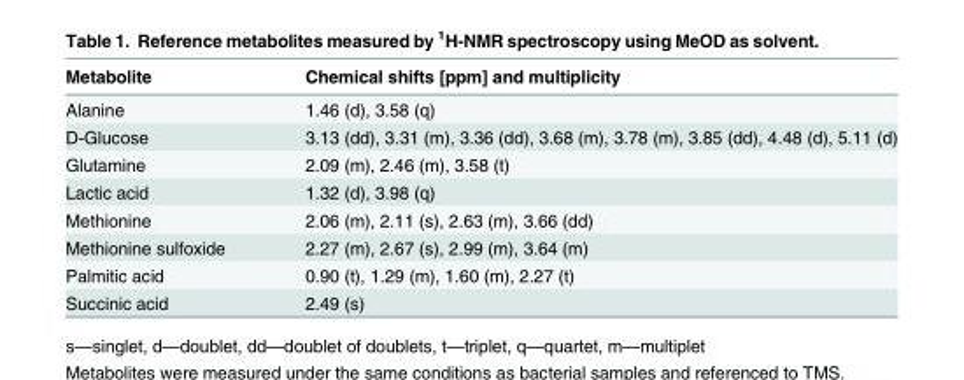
<table><thead><tr><td>Metabolite</td><td>Chemical shifts [ppm] and multiplicity</td></tr></thead><tbody><tr><td>Alanine</td><td>1.46 (d), 3.58 (q)</td></tr><tr><td>D-Glucose</td><td>3.13 (dd), 3.31 (m), 3.36 (dd), 3.68 (m), 3.78 (m), 3.85 (dd), 4.48 (d), 5.11 (d)</td></tr><tr><td>Glutamine</td><td>2.09 (m), 2.46 (m), 3.58 (t)</td></tr><tr><td>Lactic acid</td><td>1.32 (d), 3.98 (q)</td></tr><tr><td>Methionine</td><td>2.06 (m), 2.11 (s), 2.63 (m), 3.66 (dd)</td></tr><tr><td>Methionine sulfoxide</td><td>2.27 (m), 2.67 (s), 2.99 (m), 3.64 (m)</td></tr><tr><td>Palmitic acid</td><td>0.90 (t), 1.29 (m), 1.60 (m), 2.27 (t)</td></tr><tr><td>Succinic acid</td><td>2.49 (s)</td></tr></tbody></table>